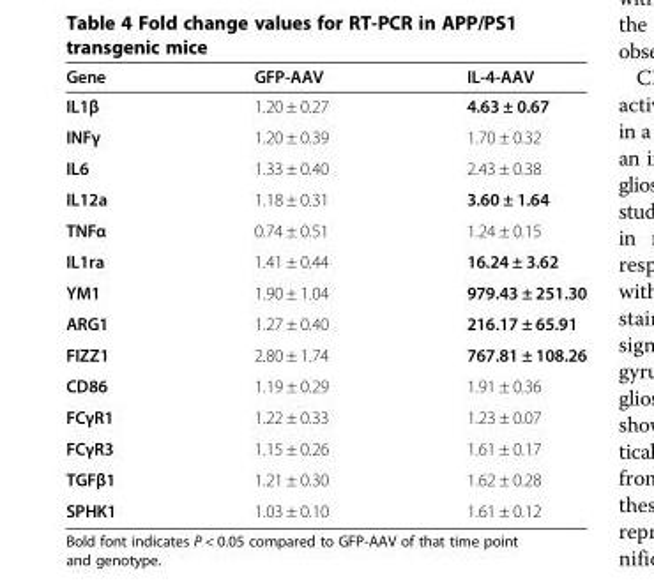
<table><thead><tr><td>Gene</td><td>GFP-AAV</td><td>IL-4-AAV</td></tr></thead><tbody><tr><td>IL1β</td><td>1.20 ± 0.27</td><td>4.63 ± 0.67</td></tr><tr><td>INFγ</td><td>1.20 ± 0.39</td><td>1.70 ± 0.32</td></tr><tr><td>IL6</td><td>1.33 ± 0.40</td><td>2.43 ± 0.38</td></tr><tr><td>IL12a</td><td>1.18 ± 0.31</td><td>3.60 ± 1.64</td></tr><tr><td>TNFα</td><td>0.74 ± 0.51</td><td>1.24 ± 0.15</td></tr><tr><td>IL1ra</td><td>1.41 ± 0.44</td><td>16.24 ± 3.62</td></tr><tr><td>YM1</td><td>1.90 ± 1.04</td><td>979.43 ± 251.30</td></tr><tr><td>ARG1</td><td>1.27 ± 0.40</td><td>216.17 ± 65.91</td></tr><tr><td>FIZZ1</td><td>2.80 ± 1.74</td><td>767.81 ± 108.26</td></tr><tr><td>CD86</td><td>1.19 ± 0.29</td><td>1.91 ± 0.36</td></tr><tr><td>FCγR1</td><td>1.22 ± 0.33</td><td>1.23 ± 0.07</td></tr><tr><td>FCγR3</td><td>1.15 ± 0.26</td><td>1.61 ± 0.17</td></tr><tr><td>TGFβ1</td><td>1.21 ± 0.30</td><td>1.62 ± 0.28</td></tr><tr><td>SPHK1</td><td>1.03 ± 0.10</td><td>1.61 ± 0.12</td></tr></tbody></table>